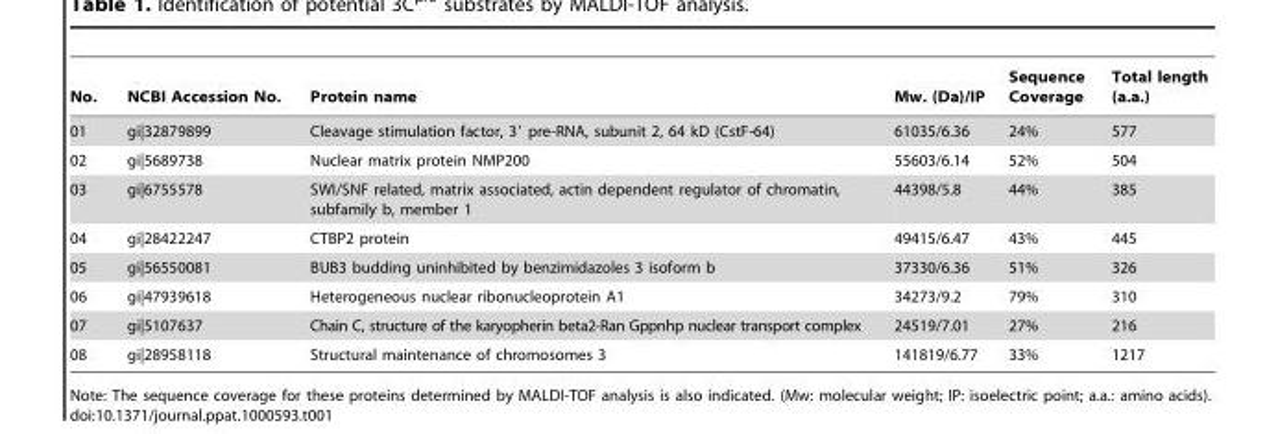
<table><thead><tr><td>No.</td><td>NCBI Accession No.</td><td>Protein name</td><td>Mw. (Da)/IP</td><td>Sequence Coverage</td><td>Total length (a.a.)</td></tr></thead><tbody><tr><td>01</td><td>gi|32879899</td><td>Cleavage stimulation factor, 3′ pre-RNA, subunit 2, 64 kD (CstF-64)</td><td>61035/6.36</td><td>24%</td><td>577</td></tr><tr><td>02</td><td>gi|5689738</td><td>Nuclear matrix protein NMP200</td><td>55603/6.14</td><td>52%</td><td>504</td></tr><tr><td>03</td><td>gi|6755578</td><td>SWI/SNF related, matrix associated, actin dependent regulator of chromatin, subfamily b, member 1</td><td>44398/5.8</td><td>44%</td><td>385</td></tr><tr><td>04</td><td>gi|28422247</td><td>CTBP2 protein</td><td>49415/6.47</td><td>43%</td><td>445</td></tr><tr><td>05</td><td>gi|56550081</td><td>BUB3 budding uninhibited by benzimidazoles 3 isoform b</td><td>37330/6.36</td><td>51%</td><td>326</td></tr><tr><td>06</td><td>gi|47939618</td><td>Heterogeneous nuclear ribonucleoprotein A1</td><td>34273/9.2</td><td>79%</td><td>310</td></tr><tr><td>07</td><td>gi|5107637</td><td>Chain C, structure of the karyopherin beta2-Ran Gppnhp nuclear transport complex</td><td>24519/7.01</td><td>27%</td><td>216</td></tr><tr><td>08</td><td>gi|28958118</td><td>Structural maintenance of chromosomes 3</td><td>141819/6.77</td><td>33%</td><td>1217</td></tr></tbody></table>